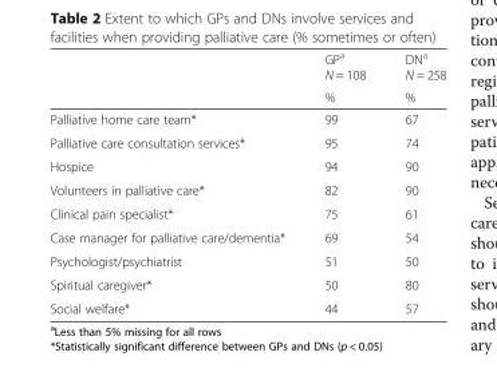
<table><thead><tr><td rowspan="2"></td><td rowspan="2">GP<sup>a</sup> N = 108 %</td><td rowspan="2">DN<sup>a</sup> N = 258 %</td></tr><tr></tr></thead><tbody><tr><td>Palliative home care team*</td><td>99</td><td>67</td></tr><tr><td>Palliative care consultation services*</td><td>95</td><td>74</td></tr><tr><td>Hospice</td><td>94</td><td>90</td></tr><tr><td>Volunteers in palliative care*</td><td>82</td><td>90</td></tr><tr><td>Clinical pain specialist*</td><td>75</td><td>61</td></tr><tr><td>Case manager for palliative care/dementia*</td><td>69</td><td>54</td></tr><tr><td>Psychologist/psychiatrist</td><td>51</td><td>50</td></tr><tr><td>Spiritual caregiver*</td><td>50</td><td>80</td></tr><tr><td>Social welfare*</td><td>44</td><td>57</td></tr></tbody></table>